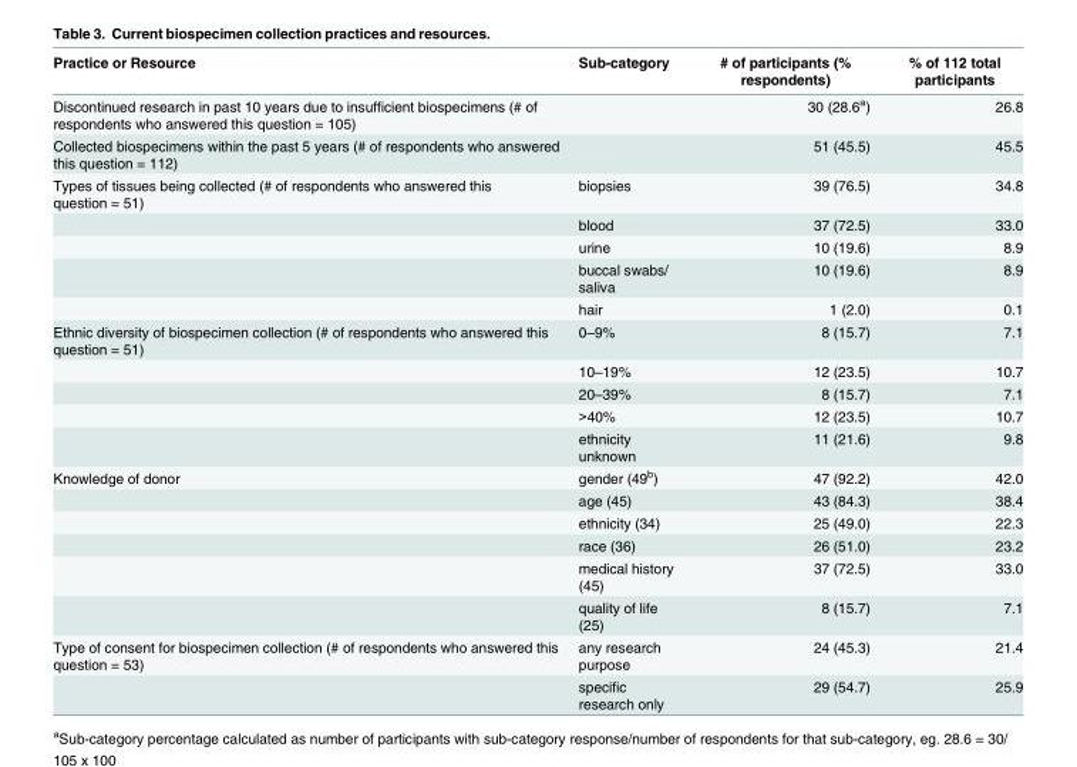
<table><thead><tr><td>Practice or Resource</td><td>Sub-category</td><td># of participants (% respondents)</td><td>% of 112 total participants</td></tr></thead><tbody><tr><td>Discontinued research in past 10 years due to insufficient biospecimens (# of respondents who answered this question = 105)</td><td></td><td>30 (28.6<sup>a</sup>)</td><td>26.8</td></tr><tr><td>Collected biospecimens within the past 5 years (# of respondents who answered this question = 112)</td><td></td><td>51 (45.5)</td><td>45.5</td></tr><tr><td rowspan="5">Types of tissues being collected (# of respondents who answered this question = 51)</td><td>biopsies</td><td>39 (76.5)</td><td>34.8</td></tr><tr><td>blood</td><td>37 (72.5)</td><td>33.0</td></tr><tr><td>urine</td><td>10 (19.6)</td><td>8.9</td></tr><tr><td>buccal swabs/ saliva</td><td>10 (19.6)</td><td>8.9</td></tr><tr><td>hair</td><td>1 (2.0)</td><td>0.1</td></tr><tr><td rowspan="5">Ethnic diversity of biospecimen collection (# of respondents who answered this question = 51)</td><td>0–9%</td><td>8 (15.7)</td><td>7.1</td></tr><tr><td>10–19%</td><td>12 (23.5)</td><td>10.7</td></tr><tr><td>20–39%</td><td>8 (15.7)</td><td>7.1</td></tr><tr><td>&gt;40%</td><td>12 (23.5)</td><td>10.7</td></tr><tr><td>ethnicity unknown</td><td>11 (21.6)</td><td>9.8</td></tr><tr><td rowspan="6">Knowledge of donor</td><td>gender (49<sup>b</sup>)</td><td>47 (92.2)</td><td>42.0</td></tr><tr><td>age (45)</td><td>43 (84.3)</td><td>38.4</td></tr><tr><td>ethnicity (34)</td><td>25 (49.0)</td><td>22.3</td></tr><tr><td>race (36)</td><td>26 (51.0)</td><td>23.2</td></tr><tr><td>medical history (45)</td><td>37 (72.5)</td><td>33.0</td></tr><tr><td>quality of life (25)</td><td>8 (15.7)</td><td>7.1</td></tr><tr><td rowspan="2">Type of consent for biospecimen collection (# of respondents who answered this question = 53)</td><td>any research purpose</td><td>24 (45.3)</td><td>21.4</td></tr><tr><td>specific research only</td><td>29 (54.7)</td><td>25.9</td></tr></tbody></table>